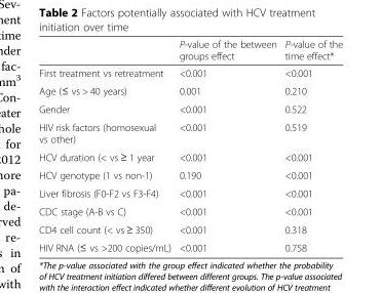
<table><thead><tr><td></td><td>P-value of the between groups effect</td><td>P-value of the time effect*</td></tr></thead><tbody><tr><td>First treatment vs retreatment</td><td>&lt;0.001</td><td>&lt;0.001</td></tr><tr><td>Age (≤ vs &gt; 40 years)</td><td>0.001</td><td>0.210</td></tr><tr><td>Gender</td><td>&lt;0.001</td><td>0.522</td></tr><tr><td>HIV risk factors (homosexual vs other)</td><td>&lt;0.001</td><td>0.519</td></tr><tr><td>HCV duration (&lt; vs ≥ 1 year</td><td>&lt;0.001</td><td>&lt;0.001</td></tr><tr><td>HCV genotype (1 vs non-1)</td><td>0.190</td><td>&lt;0.001</td></tr><tr><td>Liver fibrosis (F0-F2 vs F3-F4)</td><td>&lt;0.001</td><td>&lt;0.001</td></tr><tr><td>CDC stage (A-B vs C)</td><td>&lt;0.001</td><td>&lt;0.001</td></tr><tr><td>CD4 cell count (&lt; vs ≥ 350)</td><td>&lt;0.001</td><td>0.318</td></tr><tr><td>HIV RNA (≤ vs &gt;200 copies/mL)</td><td>&lt;0.001</td><td>0.758</td></tr></tbody></table>